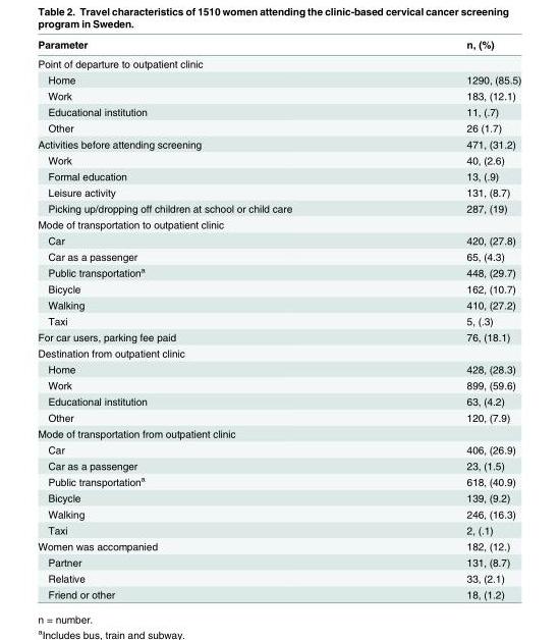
<table><thead><tr><td>Parameter</td><td>n, (%)</td></tr></thead><tbody><tr><td colspan="2">Point of departure to outpatient clinic</td></tr><tr><td>Home</td><td>1290, (85.5)</td></tr><tr><td>Work</td><td>183, (12.1)</td></tr><tr><td>Educational institution</td><td>11, (.7)</td></tr><tr><td>Other</td><td>26 (1.7)</td></tr><tr><td>Activities before attending screening</td><td>471, (31.2)</td></tr><tr><td>Work</td><td>40, (2.6)</td></tr><tr><td>Formal education</td><td>13, (.9)</td></tr><tr><td>Leisure activity</td><td>131, (8.7)</td></tr><tr><td>Picking up/dropping off children at school or child care</td><td>287, (19)</td></tr><tr><td colspan="2">Mode of transportation to outpatient clinic</td></tr><tr><td>Car</td><td>420, (27.8)</td></tr><tr><td>Car as a passenger</td><td>65, (4.3)</td></tr><tr><td>Public transportation<sup>a</sup></td><td>448, (29.7)</td></tr><tr><td>Bicycle</td><td>162, (10.7)</td></tr><tr><td>Walking</td><td>410, (27.2)</td></tr><tr><td>Taxi</td><td>5, (.3)</td></tr><tr><td>For car users, parking fee paid</td><td>76, (18.1)</td></tr><tr><td colspan="2">Destination from outpatient clinic</td></tr><tr><td>Home</td><td>428, (28.3)</td></tr><tr><td>Work</td><td>899, (59.6)</td></tr><tr><td>Educational institution</td><td>63, (4.2)</td></tr><tr><td>Other</td><td>120, (7.9)</td></tr><tr><td colspan="2">Mode of transportation from outpatient clinic</td></tr><tr><td>Car</td><td>406, (26.9)</td></tr><tr><td>Car as a passenger</td><td>23, (1.5)</td></tr><tr><td>Public transportation<sup>a</sup></td><td>618, (40.9)</td></tr><tr><td>Bicycle</td><td>139, (9.2)</td></tr><tr><td>Walking</td><td>246, (16.3)</td></tr><tr><td>Taxi</td><td>2, (.1)</td></tr><tr><td>Women was accompanied</td><td>182, (12.)</td></tr><tr><td>Partner</td><td>131, (8.7)</td></tr><tr><td>Relative</td><td>33, (2.1)</td></tr><tr><td>Friend or other</td><td>18, (1.2)</td></tr></tbody></table>